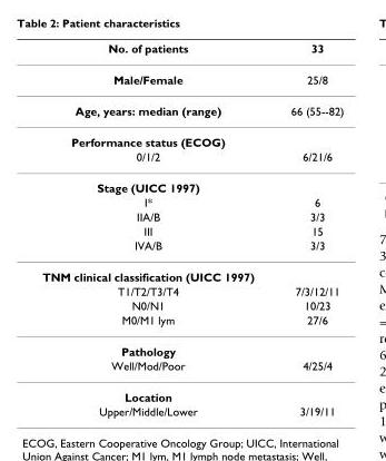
<table><thead><tr><td>No. of patients</td><td>33</td></tr></thead><tbody><tr><td>Male/Female</td><td>25/8</td></tr><tr><td>Age, years: median (range)</td><td>66 (55--82)</td></tr><tr><td colspan="2">Performance status (ECOG)</td></tr><tr><td>0/1/2</td><td>6/21/6</td></tr><tr><td colspan="2">Stage (UICC 1997)</td></tr><tr><td>I*</td><td>6</td></tr><tr><td>IIA/B</td><td>3/3</td></tr><tr><td>III</td><td>15</td></tr><tr><td>IVA/B</td><td>3/3</td></tr><tr><td colspan="2">TNM clinical classification (UICC 1997)</td></tr><tr><td>T1/T2/T3/T4</td><td>7/3/12/11</td></tr><tr><td>N0/N1</td><td>10/23</td></tr><tr><td>M0/M1 lym</td><td>27/6</td></tr><tr><td colspan="2">Pathology</td></tr><tr><td>Well/Mod/Poor</td><td>4/25/4</td></tr><tr><td colspan="2">Location</td></tr><tr><td>Upper/Middle/Lower</td><td>3/19/11</td></tr></tbody></table>